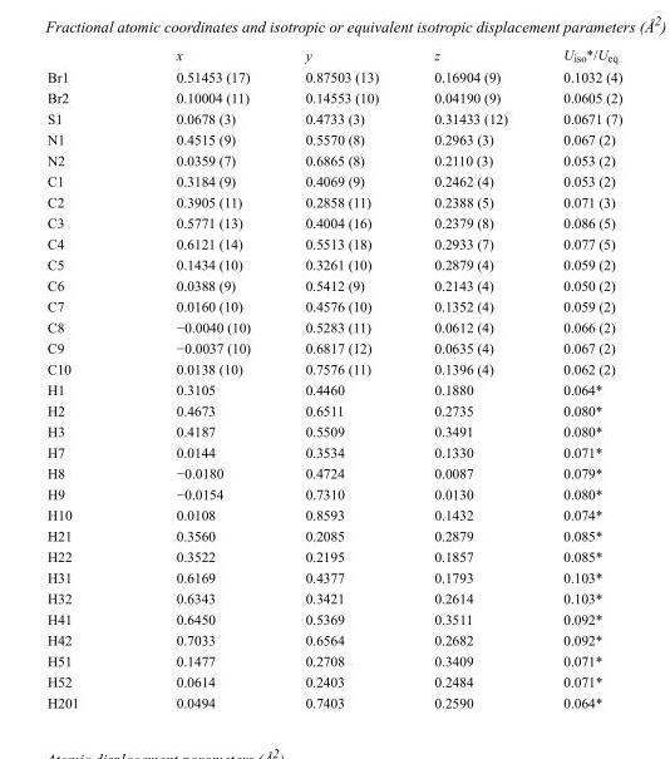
<table><thead><tr><td></td><td>x</td><td>y</td><td>z</td><td>U<sub>iso</sub>*/U<sub>eq</sub></td></tr></thead><tbody><tr><td>Br1</td><td>0.51453 (17)</td><td>0.87503 (13)</td><td>0.16904 (9)</td><td>0.1032 (4)</td></tr><tr><td>Br2</td><td>0.10004 (11)</td><td>0.14553 (10)</td><td>0.04190 (9)</td><td>0.0605 (2)</td></tr><tr><td>S1</td><td>0.0678 (3)</td><td>0.4733 (3)</td><td>0.31433 (12)</td><td>0.0671 (7)</td></tr><tr><td>N1</td><td>0.4515 (9)</td><td>0.5570 (8)</td><td>0.2963 (3)</td><td>0.067 (2)</td></tr><tr><td>N2</td><td>0.0359 (7)</td><td>0.6865 (8)</td><td>0.2110 (3)</td><td>0.053 (2)</td></tr><tr><td>C1</td><td>0.3184 (9)</td><td>0.4069 (9)</td><td>0.2462 (4)</td><td>0.053 (2)</td></tr><tr><td>C2</td><td>0.3905 (11)</td><td>0.2858 (11)</td><td>0.2388 (5)</td><td>0.071 (3)</td></tr><tr><td>C3</td><td>0.5771 (13)</td><td>0.4004 (16)</td><td>0.2379 (8)</td><td>0.086 (5)</td></tr><tr><td>C4</td><td>0.6121 (14)</td><td>0.5513 (18)</td><td>0.2933 (7)</td><td>0.077 (5)</td></tr><tr><td>C5</td><td>0.1434 (10)</td><td>0.3261 (10)</td><td>0.2879 (4)</td><td>0.059 (2)</td></tr><tr><td>C6</td><td>0.0388 (9)</td><td>0.5412 (9)</td><td>0.2143 (4)</td><td>0.050 (2)</td></tr><tr><td>C7</td><td>0.0160 (10)</td><td>0.4576 (10)</td><td>0.1352 (4)</td><td>0.059 (2)</td></tr><tr><td>C8</td><td>−0.0040 (10)</td><td>0.5283 (11)</td><td>0.0612 (4)</td><td>0.066 (2)</td></tr><tr><td>C9</td><td>−0.0037 (10)</td><td>0.6817 (12)</td><td>0.0635 (4)</td><td>0.067 (2)</td></tr><tr><td>C10</td><td>0.0138 (10)</td><td>0.7576 (11)</td><td>0.1396 (4)</td><td>0.062 (2)</td></tr><tr><td>H1</td><td>0.3105</td><td>0.4460</td><td>0.1880</td><td>0.064*</td></tr><tr><td>H2</td><td>0.4673</td><td>0.6511</td><td>0.2735</td><td>0.080*</td></tr><tr><td>H3</td><td>0.4187</td><td>0.5509</td><td>0.3491</td><td>0.080*</td></tr><tr><td>H7</td><td>0.0144</td><td>0.3534</td><td>0.1330</td><td>0.071*</td></tr><tr><td>H8</td><td>−0.0180</td><td>0.4724</td><td>0.0087</td><td>0.079*</td></tr><tr><td>H9</td><td>−0.0154</td><td>0.7310</td><td>0.0130</td><td>0.080*</td></tr><tr><td>H10</td><td>0.0108</td><td>0.8593</td><td>0.1432</td><td>0.074*</td></tr><tr><td>H21</td><td>0.3560</td><td>0.2085</td><td>0.2879</td><td>0.085*</td></tr><tr><td>H22</td><td>0.3522</td><td>0.2195</td><td>0.1857</td><td>0.085*</td></tr><tr><td>H31</td><td>0.6169</td><td>0.4377</td><td>0.1793</td><td>0.103*</td></tr><tr><td>H32</td><td>0.6343</td><td>0.3421</td><td>0.2614</td><td>0.103*</td></tr><tr><td>H41</td><td>0.6450</td><td>0.5369</td><td>0.3511</td><td>0.092*</td></tr><tr><td>H42</td><td>0.7033</td><td>0.6564</td><td>0.2682</td><td>0.092*</td></tr><tr><td>H51</td><td>0.1477</td><td>0.2708</td><td>0.3409</td><td>0.071*</td></tr><tr><td>H52</td><td>0.0614</td><td>0.2403</td><td>0.2484</td><td>0.071*</td></tr><tr><td>H201</td><td>0.0494</td><td>0.7403</td><td>0.2590</td><td>0.064*</td></tr></tbody></table>